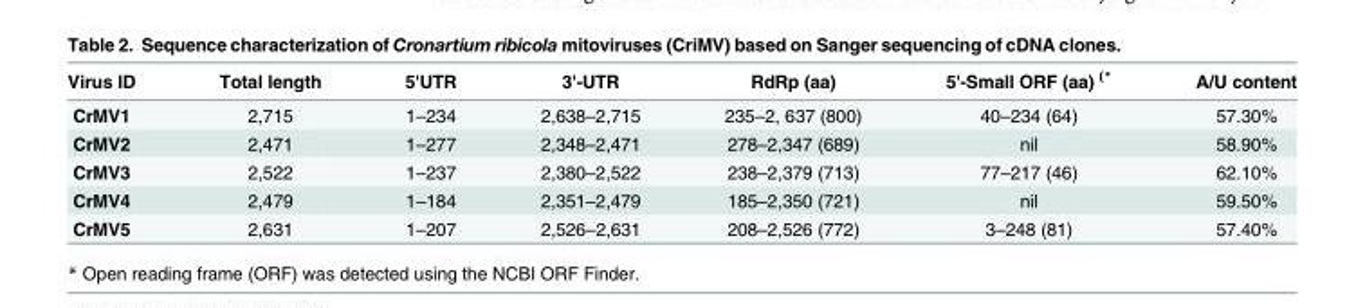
<table><thead><tr><td>Virus ID</td><td>Total length</td><td>5&#x27;UTR</td><td>3&#x27;-UTR</td><td>RdRp (aa)</td><td>5&#x27;-Small ORF (aa) <sup>(*</sup></td><td>A/U content</td></tr></thead><tbody><tr><td>CrMV1</td><td>2,715</td><td>1–234</td><td>2,638–2,715</td><td>235–2, 637 (800)</td><td>40–234 (64)</td><td>57.30%</td></tr><tr><td>CrMV2</td><td>2,471</td><td>1–277</td><td>2,348–2,471</td><td>278–2,347 (689)</td><td>nil</td><td>58.90%</td></tr><tr><td>CrMV3</td><td>2,522</td><td>1–237</td><td>2,380–2,522</td><td>238–2,379 (713)</td><td>77–217 (46)</td><td>62.10%</td></tr><tr><td>CrMV4</td><td>2,479</td><td>1–184</td><td>2,351–2,479</td><td>185–2,350 (721)</td><td>nil</td><td>59.50%</td></tr><tr><td>CrMV5</td><td>2,631</td><td>1–207</td><td>2,526–2,631</td><td>208–2,526 (772)</td><td>3–248 (81)</td><td>57.40%</td></tr></tbody></table>